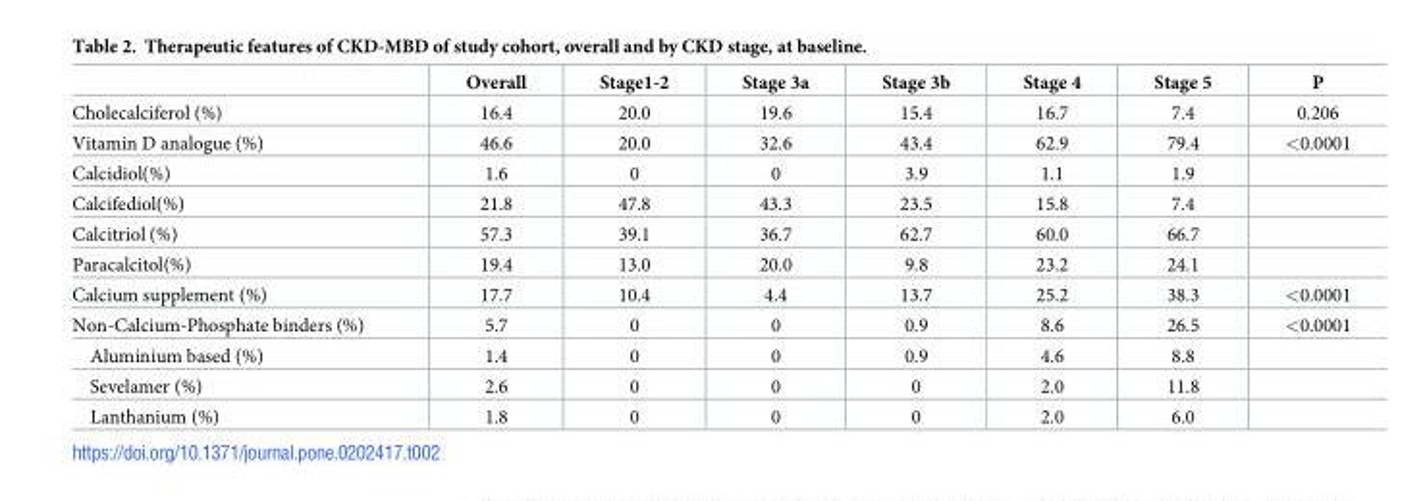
<table><thead><tr><td></td><td>Overall</td><td>Stage1-2</td><td>Stage 3a</td><td>Stage 3b</td><td>Stage 4</td><td>Stage 5</td><td>P</td></tr></thead><tbody><tr><td>Cholecalciferol (%)</td><td>16.4</td><td>20.0</td><td>19.6</td><td>15.4</td><td>16.7</td><td>7.4</td><td>0.206</td></tr><tr><td>Vitamin D analogue (%)</td><td>46.6</td><td>20.0</td><td>32.6</td><td>43.4</td><td>62.9</td><td>79.4</td><td>&lt;0.0001</td></tr><tr><td>Calcidiol(%)</td><td>1.6</td><td>0</td><td>0</td><td>3.9</td><td>1.1</td><td>1.9</td><td></td></tr><tr><td>Calcifediol(%)</td><td>21.8</td><td>47.8</td><td>43.3</td><td>23.5</td><td>15.8</td><td>7.4</td><td></td></tr><tr><td>Calcitriol (%)</td><td>57.3</td><td>39.1</td><td>36.7</td><td>62.7</td><td>60.0</td><td>66.7</td><td></td></tr><tr><td>Paracalcitol(%)</td><td>19.4</td><td>13.0</td><td>20.0</td><td>9.8</td><td>23.2</td><td>24.1</td><td></td></tr><tr><td>Calcium supplement (%)</td><td>17.7</td><td>10.4</td><td>4.4</td><td>13.7</td><td>25.2</td><td>38.3</td><td>&lt;0.0001</td></tr><tr><td>Non-Calcium-Phosphate binders (%)</td><td>5.7</td><td>0</td><td>0</td><td>0.9</td><td>8.6</td><td>26.5</td><td>&lt;0.0001</td></tr><tr><td>Aluminium based (%)</td><td>1.4</td><td>0</td><td>0</td><td>0.9</td><td>4.6</td><td>8.8</td><td></td></tr><tr><td>Sevelamer (%)</td><td>2.6</td><td>0</td><td>0</td><td>0</td><td>2.0</td><td>11.8</td><td></td></tr><tr><td>Lanthanium (%)</td><td>1.8</td><td>0</td><td>0</td><td>0</td><td>2.0</td><td>6.0</td><td></td></tr></tbody></table>